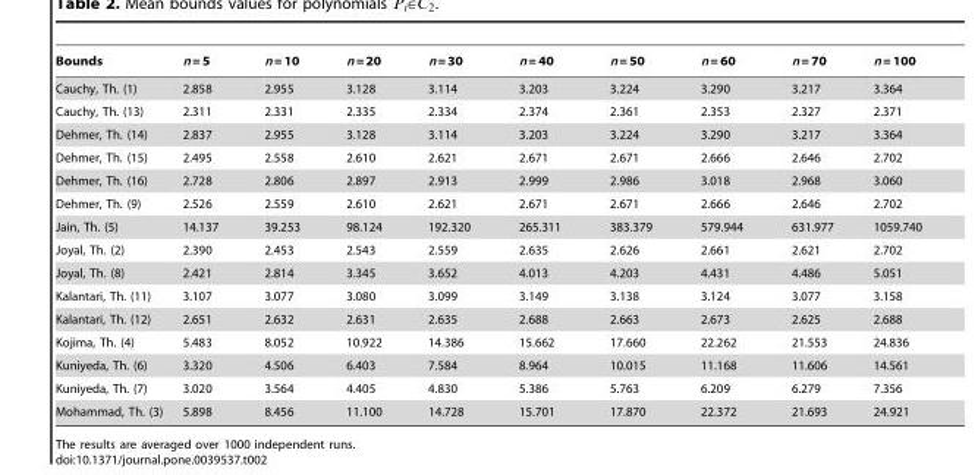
<table><thead><tr><td>Bounds</td><td>n = 5</td><td>n = 10</td><td>n = 20</td><td>n = 30</td><td>n = 40</td><td>n = 50</td><td>n = 60</td><td>n = 70</td><td>n = 100</td></tr></thead><tbody><tr><td>Cauchy, Th. (1)</td><td>2.858</td><td>2.955</td><td>3.128</td><td>3.114</td><td>3.203</td><td>3.224</td><td>3.290</td><td>3.217</td><td>3.364</td></tr><tr><td>Cauchy, Th. (13)</td><td>2.311</td><td>2.331</td><td>2.335</td><td>2.334</td><td>2.374</td><td>2.361</td><td>2.353</td><td>2.327</td><td>2.371</td></tr><tr><td>Dehmer, Th. (14)</td><td>2.837</td><td>2.955</td><td>3.128</td><td>3.114</td><td>3.203</td><td>3.224</td><td>3.290</td><td>3.217</td><td>3.364</td></tr><tr><td>Dehmer, Th. (15)</td><td>2.495</td><td>2.558</td><td>2.610</td><td>2.621</td><td>2.671</td><td>2.671</td><td>2.666</td><td>2.646</td><td>2.702</td></tr><tr><td>Dehmer, Th. (16)</td><td>2.728</td><td>2.806</td><td>2.897</td><td>2.913</td><td>2.999</td><td>2.986</td><td>3.018</td><td>2.968</td><td>3.060</td></tr><tr><td>Dehmer, Th. (9)</td><td>2.526</td><td>2.559</td><td>2.610</td><td>2.621</td><td>2.671</td><td>2.671</td><td>2.666</td><td>2.646</td><td>2.702</td></tr><tr><td>Jain, Th. (5)</td><td>14.137</td><td>39.253</td><td>98.124</td><td>192.320</td><td>265.311</td><td>383.379</td><td>579.944</td><td>631.977</td><td>1059.740</td></tr><tr><td>Joyal, Th. (2)</td><td>2.390</td><td>2.453</td><td>2.543</td><td>2.559</td><td>2.635</td><td>2.626</td><td>2.661</td><td>2.621</td><td>2.702</td></tr><tr><td>Joyal, Th. (8)</td><td>2.421</td><td>2.814</td><td>3.345</td><td>3.652</td><td>4.013</td><td>4.203</td><td>4.431</td><td>4.486</td><td>5.051</td></tr><tr><td>Kalantari, Th. (11)</td><td>3.107</td><td>3.077</td><td>3.080</td><td>3.099</td><td>3.149</td><td>3.138</td><td>3.124</td><td>3.077</td><td>3.158</td></tr><tr><td>Kalantari, Th. (12)</td><td>2.651</td><td>2.632</td><td>2.631</td><td>2.635</td><td>2.688</td><td>2.663</td><td>2.673</td><td>2.625</td><td>2.688</td></tr><tr><td>Kojima, Th. (4)</td><td>5.483</td><td>8.052</td><td>10.922</td><td>14.386</td><td>15.662</td><td>17.660</td><td>22.262</td><td>21.553</td><td>24.836</td></tr><tr><td>Kuniyeda, Th. (6)</td><td>3.320</td><td>4.506</td><td>6.403</td><td>7.584</td><td>8.964</td><td>10.015</td><td>11.168</td><td>11.606</td><td>14.561</td></tr><tr><td>Kuniyeda, Th. (7)</td><td>3.020</td><td>3.564</td><td>4.405</td><td>4.830</td><td>5.386</td><td>5.763</td><td>6.209</td><td>6.279</td><td>7.356</td></tr><tr><td>Mohammad, Th. (3)</td><td>5.898</td><td>8.456</td><td>11.100</td><td>14.728</td><td>15.701</td><td>17.870</td><td>22.372</td><td>21.693</td><td>24.921</td></tr></tbody></table>